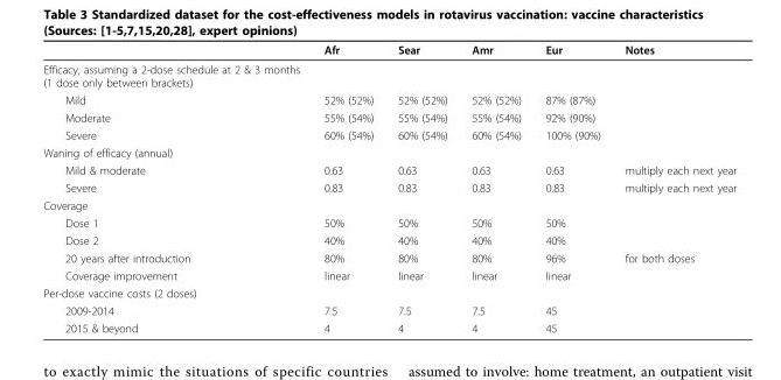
<table><thead><tr><td></td><td>Afr</td><td>Sear</td><td>Amr</td><td>Eur</td><td>Notes</td></tr></thead><tbody><tr><td colspan="6">Efficacy, assuming a 2-dose schedule at 2 &amp; 3 months (1 dose only between brackets)</td></tr><tr><td>Mild</td><td>52% (52%)</td><td>52% (52%)</td><td>52% (52%)</td><td>87% (87%)</td><td></td></tr><tr><td>Moderate</td><td>55% (54%)</td><td>55% (54%)</td><td>55% (54%)</td><td>92% (90%)</td><td></td></tr><tr><td>Severe</td><td>60% (54%)</td><td>60% (54%)</td><td>60% (54%)</td><td>100% (90%)</td><td></td></tr><tr><td colspan="6">Waning of efficacy (annual)</td></tr><tr><td>Mild &amp; moderate</td><td>0.63</td><td>0.63</td><td>0.63</td><td>0.63</td><td>multiply each next year</td></tr><tr><td>Severe</td><td>0.83</td><td>0.83</td><td>0.83</td><td>0.83</td><td>multiply each next year</td></tr><tr><td colspan="6">Coverage</td></tr><tr><td>Dose 1</td><td>50%</td><td>50%</td><td>50%</td><td>50%</td><td></td></tr><tr><td>Dose 2</td><td>40%</td><td>40%</td><td>40%</td><td>40%</td><td></td></tr><tr><td>20 years after introduction</td><td>80%</td><td>80%</td><td>80%</td><td>96%</td><td>for both doses</td></tr><tr><td>Coverage improvement</td><td>linear</td><td>linear</td><td>linear</td><td>linear</td><td></td></tr><tr><td colspan="6">Per-dose vaccine costs (2 doses)</td></tr><tr><td>2009-2014</td><td>7.5</td><td>7.5</td><td>7.5</td><td>45</td><td></td></tr><tr><td>2015 &amp; beyond</td><td>4</td><td>4</td><td>4</td><td>45</td><td></td></tr></tbody></table>